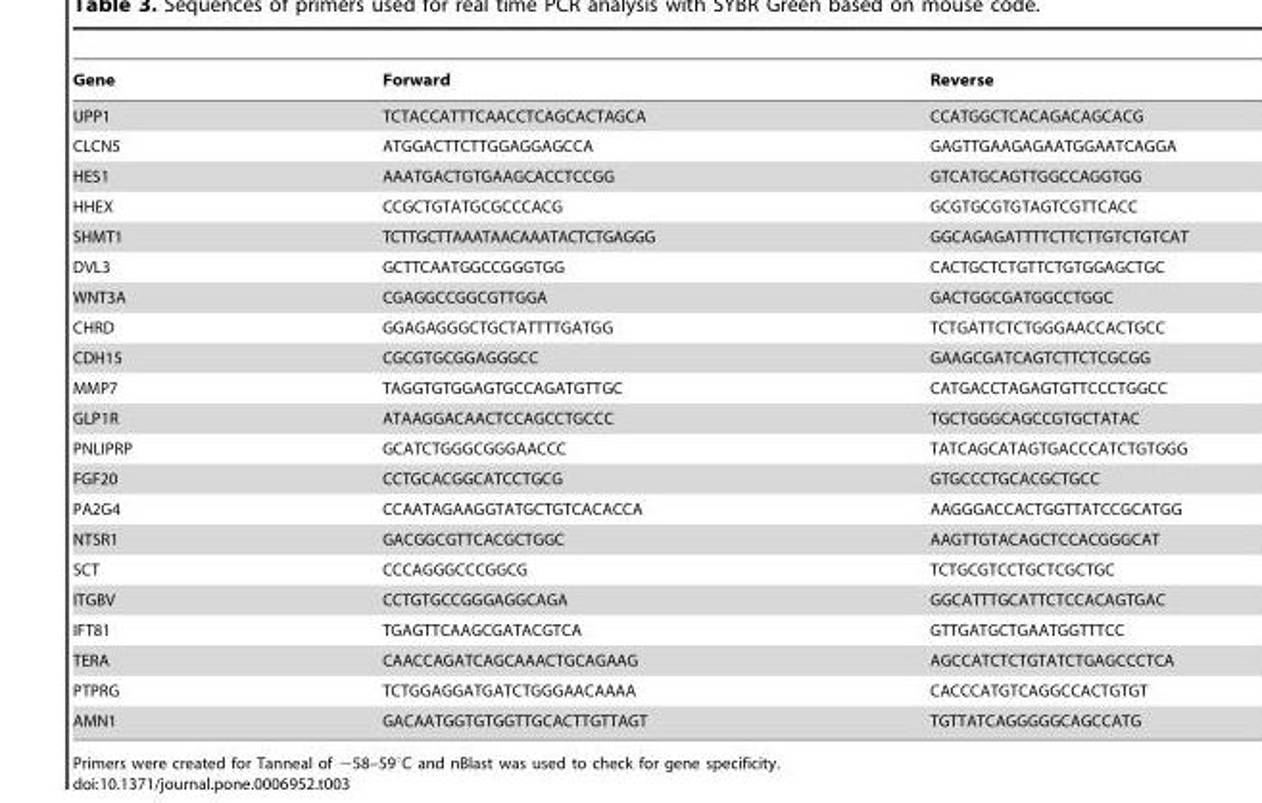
<table><thead><tr><td>Gene</td><td>Forward</td><td>Reverse</td></tr></thead><tbody><tr><td>UPP1</td><td>TCTACCATTTCAACCTCAGCACTAGCA</td><td>CCATGGCTCACAGACAGCACG</td></tr><tr><td>CLCN5</td><td>ATGGACTTCTTGGAGGAGCCA</td><td>GAGTTGAAGAGAATGGAATCAGGA</td></tr><tr><td>HES1</td><td>AAATGACTGTGAAGCACCTCCGG</td><td>GTCATGCAGTTGGCCAGGTGG</td></tr><tr><td>HHEX</td><td>CCGCTGTATGCGCCCACG</td><td>GCGTGCGTGTAGTCGTTCACC</td></tr><tr><td>SHMT1</td><td>TCTTGCTTAAATAACAAATACTCTGAGGG</td><td>GGCAGAGATTTTCTTCTTGTCTGTCAT</td></tr><tr><td>DVL3</td><td>GCTTCAATGGCCGGGTGG</td><td>CACTGCTCTGTTCTGTGGAGCTGC</td></tr><tr><td>WNT3A</td><td>CGAGGCCGGCGTTGGA</td><td>GACTGGCGATGGCCTGGC</td></tr><tr><td>CHRD</td><td>GGAGAGGGCTGCTATTTTGATGG</td><td>TCTGATTCTCTGGGAACCACTGCC</td></tr><tr><td>CDH15</td><td>CGCGTGCGGAGGGCC</td><td>GAAGCGATCAGTCTTCTCGCGG</td></tr><tr><td>MMP7</td><td>TAGGTGTGGAGTGCCAGATGTTGC</td><td>CATGACCTAGAGTGTTCCCTGGCC</td></tr><tr><td>GLP1R</td><td>ATAAGGACAACTCCAGCCTGCCC</td><td>TGCTGGGCAGCCGTGCTATAC</td></tr><tr><td>PNLIPRP</td><td>GCATCTGGGCGGGAACCC</td><td>TATCAGCATAGTGACCCATCTGTGGG</td></tr><tr><td>FGF20</td><td>CCTGCACGGCATCCTGCG</td><td>GTGCCCTGCACGCTGCC</td></tr><tr><td>PA2G4</td><td>CCAATAGAAGGTATGCTGTCACACCA</td><td>AAGGGACCACTGGTTATCCGCATGG</td></tr><tr><td>NTSR1</td><td>GACGGCGTTCACGCTGGC</td><td>AAGTTGTACAGCTCCACGGGCAT</td></tr><tr><td>SCT</td><td>CCCAGGGCCCGGCG</td><td>TCTGCGTCCTGCTCGCTGC</td></tr><tr><td>ITGBV</td><td>CCTGTGCCGGGAGGCAGA</td><td>GGCATTTGCATTCTCCACAGTGAC</td></tr><tr><td>IFT81</td><td>TGAGTTCAAGCGATACGTCA</td><td>GTTGATGCTGAATGGTTTCC</td></tr><tr><td>TERA</td><td>CAACCAGATCAGCAAACTGCAGAAG</td><td>AGCCATCTCTGTATCTGAGCCCTCA</td></tr><tr><td>PTPRG</td><td>TCTGGAGGATGATCTGGGAACAAAA</td><td>CACCCATGTCAGGCCACTGTGT</td></tr><tr><td>AMN1</td><td>GACAATGGTGTGGTTGCACTTGTTAGT</td><td>TGTTATCAGGGGGCAGCCATG</td></tr></tbody></table>